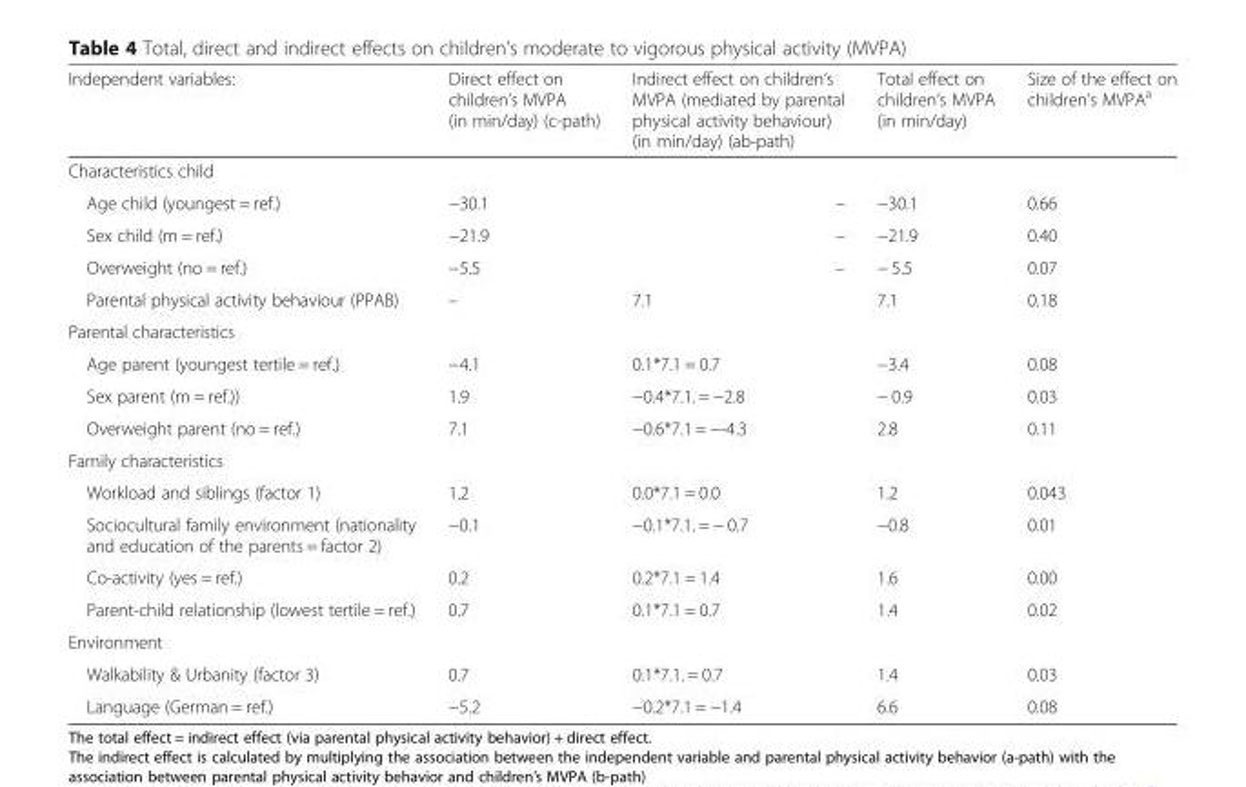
<table><thead><tr><td>Independent variables:</td><td>Direct effect on children’s MVPA (in min/day) (c-path)</td><td>Indirect effect on children’s MVPA (mediated by parental physical activity behaviour) (in min/day) (ab-path)</td><td>Total effect on children’s MVPA (in min/day)</td><td>Size of the effect on children’s MVPA<sup>a</sup></td></tr></thead><tbody><tr><td colspan="5">Characteristics child</td></tr><tr><td>Age child (youngest = ref.)</td><td>−30.1</td><td>–</td><td>−30.1</td><td>0.66</td></tr><tr><td>Sex child (m = ref.)</td><td>−21.9</td><td>–</td><td>−21.9</td><td>0.40</td></tr><tr><td>Overweight (no = ref.)</td><td>−5.5</td><td>–</td><td>− 5.5</td><td>0.07</td></tr><tr><td>Parental physical activity behaviour (PPAB)</td><td>–</td><td>7.1</td><td>7.1</td><td>0.18</td></tr><tr><td colspan="5">Parental characteristics</td></tr><tr><td>Age parent (youngest tertile = ref.)</td><td>−4.1</td><td>0.1*7.1 = 0.7</td><td>−3.4</td><td>0.08</td></tr><tr><td>Sex parent (m = ref.))</td><td>1.9</td><td>−0.4*7.1. = −2.8</td><td>− 0.9</td><td>0.03</td></tr><tr><td>Overweight parent (no = ref.)</td><td>7.1</td><td>−0.6*7.1 = −-4.3</td><td>2.8</td><td>0.11</td></tr><tr><td colspan="5">Family characteristics</td></tr><tr><td>Workload and siblings (factor 1)</td><td>1.2</td><td>0.0*7.1 = 0.0</td><td>1.2</td><td>0.043</td></tr><tr><td>Sociocultural family environment (nationality and education of the parents = factor 2)</td><td>−0.1</td><td>−0.1*7.1. = − 0.7</td><td>−0.8</td><td>0.01</td></tr><tr><td>Co-activity (yes = ref.)</td><td>0.2</td><td>0.2*7.1 = 1.4</td><td>1.6</td><td>0.00</td></tr><tr><td>Parent-child relationship (lowest tertile = ref.)</td><td>0.7</td><td>0.1*7.1 = 0.7</td><td>1.4</td><td>0.02</td></tr><tr><td colspan="5">Environment</td></tr><tr><td>Walkability &amp; Urbanity (factor 3)</td><td>0.7</td><td>0.1*7.1. = 0.7</td><td>1.4</td><td>0.03</td></tr><tr><td>Language (German = ref.)</td><td>−5.2</td><td>−0.2*7.1 = −1.4</td><td>6.6</td><td>0.08</td></tr></tbody></table>